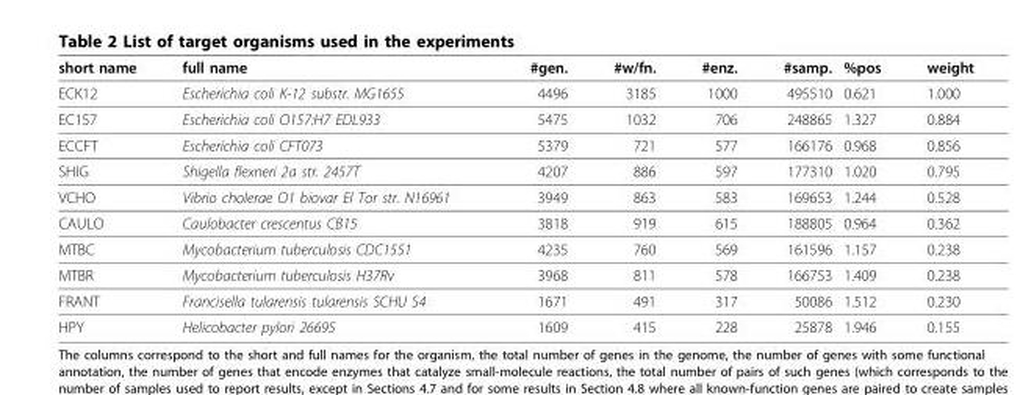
<table><thead><tr><td>short name</td><td>full name</td><td>#gen.</td><td>#w/fn.</td><td>#enz.</td><td>#samp.</td><td>%pos</td><td>weight</td></tr></thead><tbody><tr><td>ECK12</td><td>Escherichia coli K-12 substr. MG1655</td><td>4496</td><td>3185</td><td>1000</td><td>495510</td><td>0.621</td><td>1.000</td></tr><tr><td>EC157</td><td>Escherichia coli O157:H7 EDL933</td><td>5475</td><td>1032</td><td>706</td><td>248865</td><td>1.327</td><td>0.884</td></tr><tr><td>ECCFT</td><td>Escherichia coli CFT073</td><td>5379</td><td>721</td><td>577</td><td>166176</td><td>0.968</td><td>0.856</td></tr><tr><td>SHIG</td><td>Shigella flexneri 2a str. 2457T</td><td>4207</td><td>886</td><td>597</td><td>177310</td><td>1.020</td><td>0.795</td></tr><tr><td>VCHO</td><td>Vibrio cholerae O1 biovar El Tor str. N16961</td><td>3949</td><td>863</td><td>583</td><td>169653</td><td>1.244</td><td>0.528</td></tr><tr><td>CAULO</td><td>Caulobacter crescentus CB15</td><td>3818</td><td>919</td><td>615</td><td>188805</td><td>0.964</td><td>0.362</td></tr><tr><td>MTBC</td><td>Mycobacterium tuberculosis CDC1551</td><td>4235</td><td>760</td><td>569</td><td>161596</td><td>1.157</td><td>0.238</td></tr><tr><td>MTBR</td><td>Mycobacterium tuberculosis H37Rv</td><td>3968</td><td>811</td><td>578</td><td>166753</td><td>1.409</td><td>0.238</td></tr><tr><td>FRANT</td><td>Francisella tularensis tularensis SCHU S4</td><td>1671</td><td>491</td><td>317</td><td>50086</td><td>1.512</td><td>0.230</td></tr><tr><td>HPY</td><td>Helicobacter pylori 26695</td><td>1609</td><td>415</td><td>228</td><td>25878</td><td>1.946</td><td>0.155</td></tr></tbody></table>